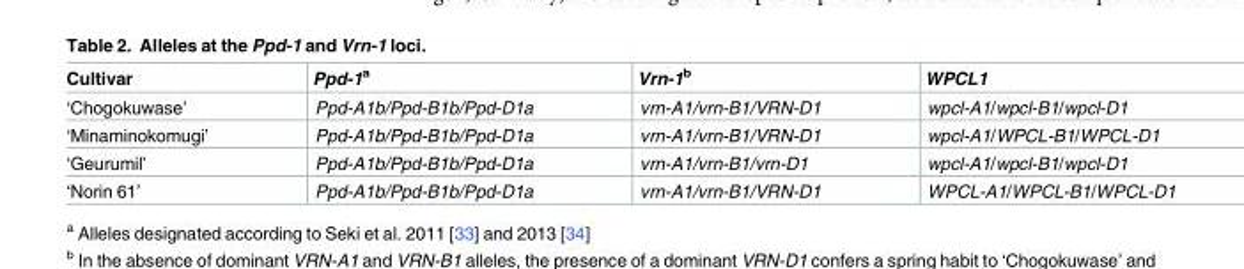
<table><thead><tr><td>Cultivar</td><td>Ppd-1<sup>a</sup></td><td>Vrn-1<sup>b</sup></td><td>WPCL1</td></tr></thead><tbody><tr><td>‘Chogokuwase’</td><td>Ppd-A1b/Ppd-B1b/Ppd-D1a</td><td>vrn-A1/vrn-B1/VRN-D1</td><td>wpcl-A1/wpcl-B1/wpcl-D1</td></tr><tr><td>‘Minaminokomugi’</td><td>Ppd-A1b/Ppd-B1b/Ppd-D1a</td><td>vrn-A1/vrn-B1/VRN-D1</td><td>wpcl-A1/WPCL-B1/WPCL-D1</td></tr><tr><td>‘Geurumil’</td><td>Ppd-A1b/Ppd-B1b/Ppd-D1a</td><td>vrn-A1/vrn-B1/vrn-D1</td><td>wpcl-A1/wpcl-B1/wpcl-D1</td></tr><tr><td>‘Norin 61’</td><td>Ppd-A1b/Ppd-B1b/Ppd-D1a</td><td>vrn-A1/vrn-B1/VRN-D1</td><td>WPCL-A1/WPCL-B1/WPCL-D1</td></tr></tbody></table>